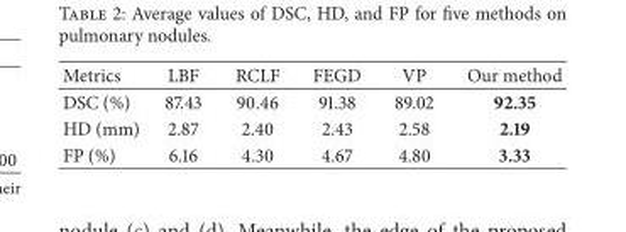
<table><thead><tr><td>Metrics</td><td>LBF</td><td>RCLF</td><td>FEGD</td><td>VP</td><td>Our method</td></tr></thead><tbody><tr><td>DSC (%)</td><td>87.43</td><td>90.46</td><td>91.38</td><td>89.02</td><td>92.35</td></tr><tr><td>HD (mm)</td><td>2.87</td><td>2.40</td><td>2.43</td><td>2.58</td><td>2.19</td></tr><tr><td>FP (%)</td><td>6.16</td><td>4.30</td><td>4.67</td><td>4.80</td><td>3.33</td></tr></tbody></table>